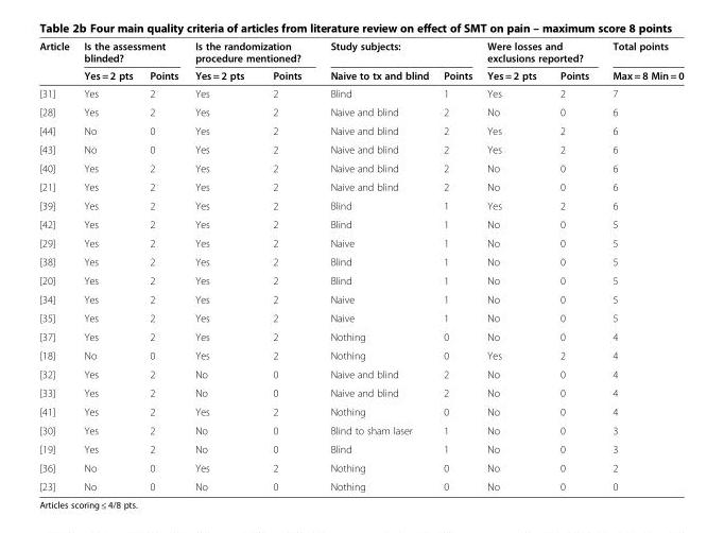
<table><thead><tr><td rowspan="2">Article</td><td colspan="2">Is the assessment blinded?</td><td colspan="2">Is the randomization procedure mentioned?</td><td colspan="2">Study subjects:</td><td colspan="2">Were losses and exclusions reported?</td><td rowspan="2">Total points Max = 8 Min = 0</td></tr><tr><td>Yes = 2 pts</td><td>Points</td><td>Yes = 2 pts</td><td>Points</td><td>Naive to tx and blind</td><td>Points</td><td>Yes = 2 pts</td><td>Points</td></tr></thead><tbody><tr><td>[31]</td><td>Yes</td><td>2</td><td>Yes</td><td>2</td><td>Blind</td><td>1</td><td>Yes</td><td>2</td><td>7</td></tr><tr><td>[28]</td><td>Yes</td><td>2</td><td>Yes</td><td>2</td><td>Naive and blind</td><td>2</td><td>No</td><td>0</td><td>6</td></tr><tr><td>[44]</td><td>No</td><td>0</td><td>Yes</td><td>2</td><td>Naive and blind</td><td>2</td><td>Yes</td><td>2</td><td>6</td></tr><tr><td>[43]</td><td>No</td><td>0</td><td>Yes</td><td>2</td><td>Naive and blind</td><td>2</td><td>Yes</td><td>2</td><td>6</td></tr><tr><td>[40]</td><td>Yes</td><td>2</td><td>Yes</td><td>2</td><td>Naive and blind</td><td>2</td><td>No</td><td>0</td><td>6</td></tr><tr><td>[21]</td><td>Yes</td><td>2</td><td>Yes</td><td>2</td><td>Naive and blind</td><td>2</td><td>No</td><td>0</td><td>6</td></tr><tr><td>[39]</td><td>Yes</td><td>2</td><td>Yes</td><td>2</td><td>Blind</td><td>1</td><td>Yes</td><td>2</td><td>6</td></tr><tr><td>[42]</td><td>Yes</td><td>2</td><td>Yes</td><td>2</td><td>Blind</td><td>1</td><td>No</td><td>0</td><td>5</td></tr><tr><td>[29]</td><td>Yes</td><td>2</td><td>Yes</td><td>2</td><td>Naive</td><td>1</td><td>No</td><td>0</td><td>5</td></tr><tr><td>[38]</td><td>Yes</td><td>2</td><td>Yes</td><td>2</td><td>Blind</td><td>1</td><td>No</td><td>0</td><td>5</td></tr><tr><td>[20]</td><td>Yes</td><td>2</td><td>Yes</td><td>2</td><td>Blind</td><td>1</td><td>No</td><td>0</td><td>5</td></tr><tr><td>[34]</td><td>Yes</td><td>2</td><td>Yes</td><td>2</td><td>Naive</td><td>1</td><td>No</td><td>0</td><td>5</td></tr><tr><td>[35]</td><td>Yes</td><td>2</td><td>Yes</td><td>2</td><td>Naive</td><td>1</td><td>No</td><td>0</td><td>5</td></tr><tr><td>[37]</td><td>Yes</td><td>2</td><td>Yes</td><td>2</td><td>Nothing</td><td>0</td><td>No</td><td>0</td><td>4</td></tr><tr><td>[18]</td><td>No</td><td>0</td><td>Yes</td><td>2</td><td>Nothing</td><td>0</td><td>Yes</td><td>2</td><td>4</td></tr><tr><td>[32]</td><td>Yes</td><td>2</td><td>No</td><td>0</td><td>Naive and blind</td><td>2</td><td>No</td><td>0</td><td>4</td></tr><tr><td>[33]</td><td>Yes</td><td>2</td><td>No</td><td>0</td><td>Naive and blind</td><td>2</td><td>No</td><td>0</td><td>4</td></tr><tr><td>[41]</td><td>Yes</td><td>2</td><td>Yes</td><td>2</td><td>Nothing</td><td>0</td><td>No</td><td>0</td><td>4</td></tr><tr><td>[30]</td><td>Yes</td><td>2</td><td>No</td><td>0</td><td>Blind to sham laser</td><td>1</td><td>No</td><td>0</td><td>3</td></tr><tr><td>[19]</td><td>Yes</td><td>2</td><td>No</td><td>0</td><td>Blind</td><td>1</td><td>No</td><td>0</td><td>3</td></tr><tr><td>[36]</td><td>No</td><td>0</td><td>Yes</td><td>2</td><td>Nothing</td><td>0</td><td>No</td><td>0</td><td>2</td></tr><tr><td>[23]</td><td>No</td><td>0</td><td>No</td><td>0</td><td>Nothing</td><td>0</td><td>No</td><td>0</td><td>0</td></tr></tbody></table>